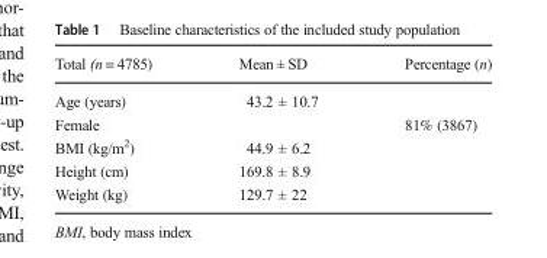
<table><thead><tr><td>Total (n = 4785)</td><td>Mean ± SD</td><td>Percentage (n)</td></tr></thead><tbody><tr><td>Age (years)</td><td>43.2 ± 10.7</td><td></td></tr><tr><td>Female</td><td></td><td>81% (3867)</td></tr><tr><td>BMI (kg/m<sup>2</sup>)</td><td>44.9 ± 6.2</td><td></td></tr><tr><td>Height (cm)</td><td>169.8 ± 8.9</td><td></td></tr><tr><td>Weight (kg)</td><td>129.7 ± 22</td><td></td></tr></tbody></table>